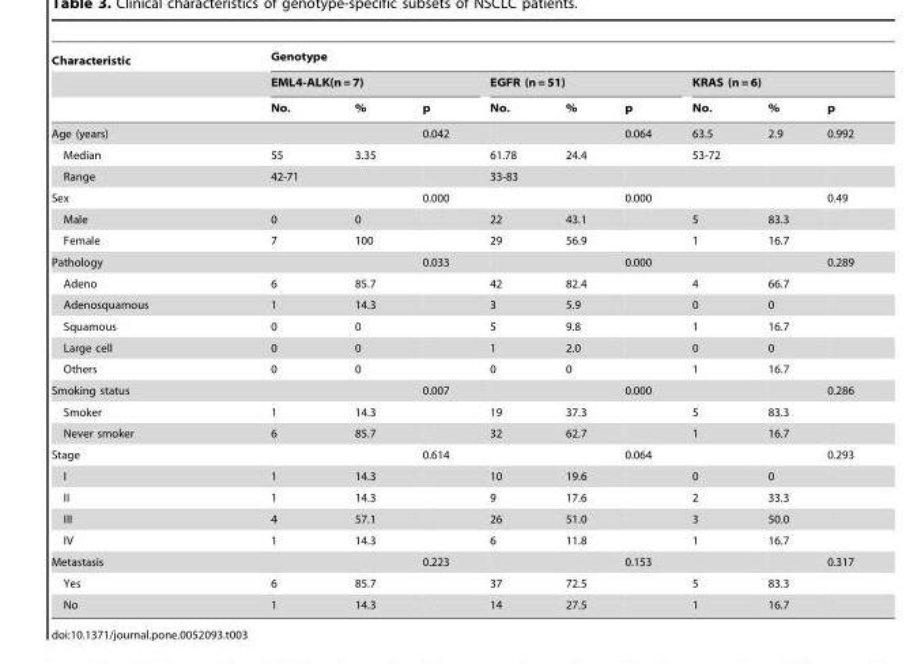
<table><thead><tr><td rowspan="3">Characteristic</td><td colspan="9">Genotype</td></tr><tr><td colspan="3">EML4-ALK(n = 7)</td><td colspan="3">EGFR (n = 51)</td><td colspan="3">KRAS (n = 6)</td></tr><tr><td>No.</td><td>%</td><td>p</td><td>No.</td><td>%</td><td>p</td><td>No.</td><td>%</td><td>p</td></tr></thead><tbody><tr><td>Age (years)</td><td></td><td></td><td>0.042</td><td></td><td></td><td>0.064</td><td>63.5</td><td>2.9</td><td>0.992</td></tr><tr><td>Median</td><td>55</td><td>3.35</td><td></td><td>61.78</td><td>24.4</td><td></td><td>53-72</td><td></td><td></td></tr><tr><td>Range</td><td>42-71</td><td></td><td></td><td>33-83</td><td></td><td></td><td></td><td></td><td></td></tr><tr><td>Sex</td><td></td><td></td><td>0.000</td><td></td><td></td><td>0.000</td><td></td><td></td><td>0.49</td></tr><tr><td>Male</td><td>0</td><td>0</td><td></td><td>22</td><td>43.1</td><td></td><td>5</td><td>83.3</td><td></td></tr><tr><td>Female</td><td>7</td><td>100</td><td></td><td>29</td><td>56.9</td><td></td><td>1</td><td>16.7</td><td></td></tr><tr><td>Pathology</td><td></td><td></td><td>0.033</td><td></td><td></td><td>0.000</td><td></td><td></td><td>0.289</td></tr><tr><td>Adeno</td><td>6</td><td>85.7</td><td></td><td>42</td><td>82.4</td><td></td><td>4</td><td>66.7</td><td></td></tr><tr><td>Adenosquamous</td><td>1</td><td>14.3</td><td></td><td>3</td><td>5.9</td><td></td><td>0</td><td>0</td><td></td></tr><tr><td>Squamous</td><td>0</td><td>0</td><td></td><td>5</td><td>9.8</td><td></td><td>1</td><td>16.7</td><td></td></tr><tr><td>Large cell</td><td>0</td><td>0</td><td></td><td>1</td><td>2.0</td><td></td><td>0</td><td>0</td><td></td></tr><tr><td>Others</td><td>0</td><td>0</td><td></td><td>0</td><td>0</td><td></td><td>1</td><td>16.7</td><td></td></tr><tr><td>Smoking status</td><td></td><td></td><td>0.007</td><td></td><td></td><td>0.000</td><td></td><td></td><td>0.286</td></tr><tr><td>Smoker</td><td>1</td><td>14.3</td><td></td><td>19</td><td>37.3</td><td></td><td>5</td><td>83.3</td><td></td></tr><tr><td>Never smoker</td><td>6</td><td>85.7</td><td></td><td>32</td><td>62.7</td><td></td><td>1</td><td>16.7</td><td></td></tr><tr><td>Stage</td><td></td><td></td><td>0.614</td><td></td><td></td><td>0.064</td><td></td><td></td><td>0.293</td></tr><tr><td>I</td><td>1</td><td>14.3</td><td></td><td>10</td><td>19.6</td><td></td><td>0</td><td>0</td><td></td></tr><tr><td>II</td><td>1</td><td>14.3</td><td></td><td>9</td><td>17.6</td><td></td><td>2</td><td>33.3</td><td></td></tr><tr><td>III</td><td>4</td><td>57.1</td><td></td><td>26</td><td>51.0</td><td></td><td>3</td><td>50.0</td><td></td></tr><tr><td>IV</td><td>1</td><td>14.3</td><td></td><td>6</td><td>11.8</td><td></td><td>1</td><td>16.7</td><td></td></tr><tr><td>Metastasis</td><td></td><td></td><td>0.223</td><td></td><td></td><td>0.153</td><td></td><td></td><td>0.317</td></tr><tr><td>Yes</td><td>6</td><td>85.7</td><td></td><td>37</td><td>72.5</td><td></td><td>5</td><td>83.3</td><td></td></tr><tr><td>No</td><td>1</td><td>14.3</td><td></td><td>14</td><td>27.5</td><td></td><td>1</td><td>16.7</td><td></td></tr></tbody></table>